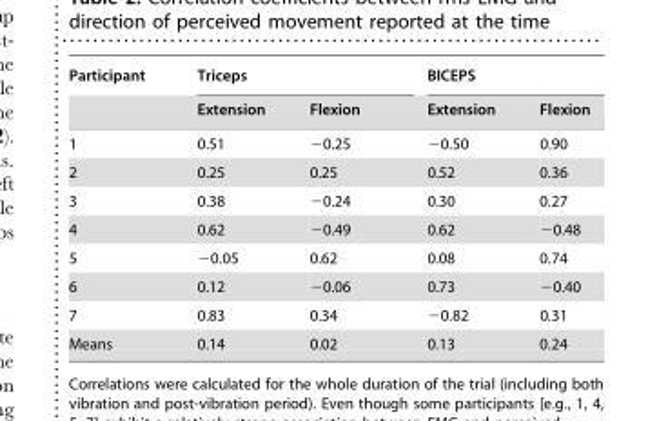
<table><thead><tr><td rowspan="2">Participant</td><td colspan="2">Triceps</td><td colspan="2">BICEPS</td></tr><tr><td>Extension</td><td>Flexion</td><td>Extension</td><td>Flexion</td></tr></thead><tbody><tr><td>1</td><td>0.51</td><td>−0.25</td><td>−0.50</td><td>0.90</td></tr><tr><td>2</td><td>0.25</td><td>0.25</td><td>0.52</td><td>0.36</td></tr><tr><td>3</td><td>0.38</td><td>−0.24</td><td>0.30</td><td>0.27</td></tr><tr><td>4</td><td>0.62</td><td>−0.49</td><td>0.62</td><td>−0.48</td></tr><tr><td>5</td><td>−0.05</td><td>0.62</td><td>0.08</td><td>0.74</td></tr><tr><td>6</td><td>0.12</td><td>−0.06</td><td>0.73</td><td>−0.40</td></tr><tr><td>7</td><td>0.83</td><td>0.34</td><td>−0.82</td><td>0.31</td></tr><tr><td>Means</td><td>0.14</td><td>0.02</td><td>0.13</td><td>0.24</td></tr></tbody></table>